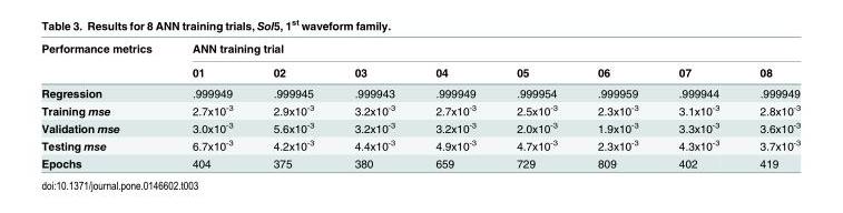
<table><thead><tr><td rowspan="2">Performance metrics</td><td colspan="8">ANN training trial</td></tr><tr><td>01</td><td>02</td><td>03</td><td>04</td><td>05</td><td>06</td><td>07</td><td>08</td></tr></thead><tbody><tr><td>Regression</td><td>.999949</td><td>.999945</td><td>.999943</td><td>.999949</td><td>.999954</td><td>.999959</td><td>.999944</td><td>.999949</td></tr><tr><td>Training mse</td><td>2.7x10<sup>-3</sup></td><td>2.9x10<sup>-3</sup></td><td>3.2x10<sup>-3</sup></td><td>2.7x10<sup>-3</sup></td><td>2.5x10<sup>-3</sup></td><td>2.3x10<sup>-3</sup></td><td>3.1x10<sup>-3</sup></td><td>2.8x10<sup>-3</sup></td></tr><tr><td>Validation mse</td><td>3.0x10<sup>-3</sup></td><td>5.6x10<sup>-3</sup></td><td>3.2x10<sup>-3</sup></td><td>3.2x10<sup>-3</sup></td><td>2.0x10<sup>-3</sup></td><td>1.9x10<sup>-3</sup></td><td>3.3x10<sup>-3</sup></td><td>3.6x10<sup>-3</sup></td></tr><tr><td>Testing mse</td><td>6.7x10<sup>-3</sup></td><td>4.2x10<sup>-3</sup></td><td>4.4x10<sup>-3</sup></td><td>4.9x10<sup>-3</sup></td><td>4.7x10<sup>-3</sup></td><td>2.3x10<sup>-3</sup></td><td>4.3x10<sup>-3</sup></td><td>3.7x10<sup>-3</sup></td></tr><tr><td>Epochs</td><td>404</td><td>375</td><td>380</td><td>659</td><td>729</td><td>809</td><td>402</td><td>419</td></tr></tbody></table>